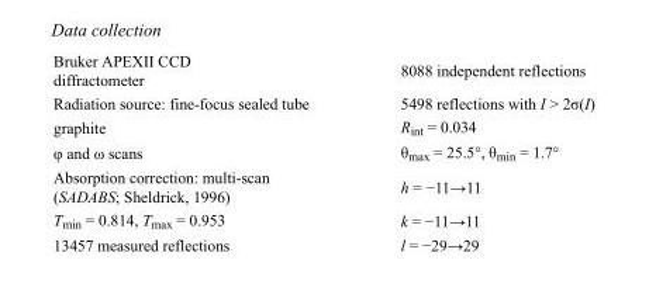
<table><tbody><tr><td>Bruker APEXII CCD diffractometer</td><td>8088 independent reflections</td></tr><tr><td>Radiation source: fine-focus sealed tube</td><td>5498 reflections with I &gt; 2σ(I)</td></tr><tr><td>graphite</td><td>R<sub>int</sub> = 0.034</td></tr><tr><td>φ and ω scans</td><td>θ<sub>max</sub> = 25.5°, θ<sub>min</sub> = 1.7°</td></tr><tr><td>Absorption correction: multi-scan (SADABS; Sheldrick, 1996)</td><td>h = −11→11</td></tr><tr><td>T<sub>min</sub> = 0.814, T<sub>max</sub> = 0.953</td><td>k = −11→11</td></tr><tr><td>13457 measured reflections</td><td>l = −29→29</td></tr></tbody></table>